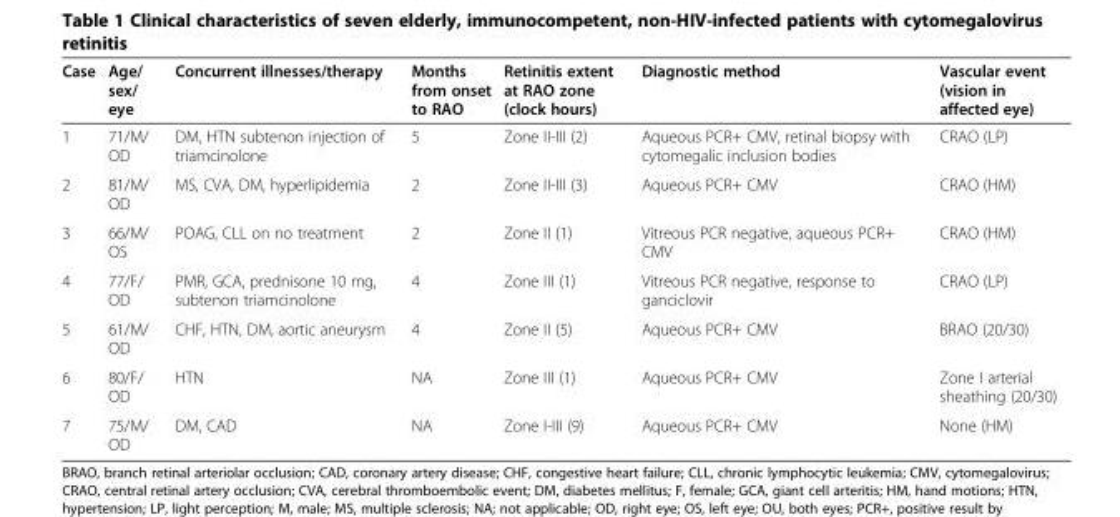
<table><thead><tr><td>Case</td><td>Age/ sex/ eye</td><td>Concurrent illnesses/therapy</td><td>Months from onset to RAO</td><td>Retinitis extent at RAO zone (clock hours)</td><td>Diagnostic method</td><td>Vascular event (vision in affected eye)</td></tr></thead><tbody><tr><td>1</td><td>71/M/ OD</td><td>DM, HTN subtenon injection of triamcinolone</td><td>5</td><td>Zone II-III (2)</td><td>Aqueous PCR+ CMV, retinal biopsy with cytomegalic inclusion bodies</td><td>CRAO (LP)</td></tr><tr><td>2</td><td>81/M/ OD</td><td>MS, CVA, DM, hyperlipidemia</td><td>2</td><td>Zone II-III (3)</td><td>Aqueous PCR+ CMV</td><td>CRAO (HM)</td></tr><tr><td>3</td><td>66/M/ OS</td><td>POAG, CLL on no treatment</td><td>2</td><td>Zone II (1)</td><td>Vitreous PCR negative, aqueous PCR+ CMV</td><td>CRAO (HM)</td></tr><tr><td>4</td><td>77/F/ OD</td><td>PMR, GCA, prednisone 10 mg, subtenon triamcinolone</td><td>4</td><td>Zone III (1)</td><td>Vitreous PCR negative, response to ganciclovir</td><td>CRAO (LP)</td></tr><tr><td>5</td><td>61/M/ OD</td><td>CHF, HTN, DM, aortic aneurysm</td><td>4</td><td>Zone II (5)</td><td>Aqueous PCR+ CMV</td><td>BRAO (20/30)</td></tr><tr><td>6</td><td>80/F/ OD</td><td>HTN</td><td>NA</td><td>Zone III (1)</td><td>Aqueous PCR+ CMV</td><td>Zone I arterial sheathing (20/30)</td></tr><tr><td>7</td><td>75/M/ OD</td><td>DM, CAD</td><td>NA</td><td>Zone I-III (9)</td><td>Aqueous PCR+ CMV</td><td>None (HM)</td></tr></tbody></table>